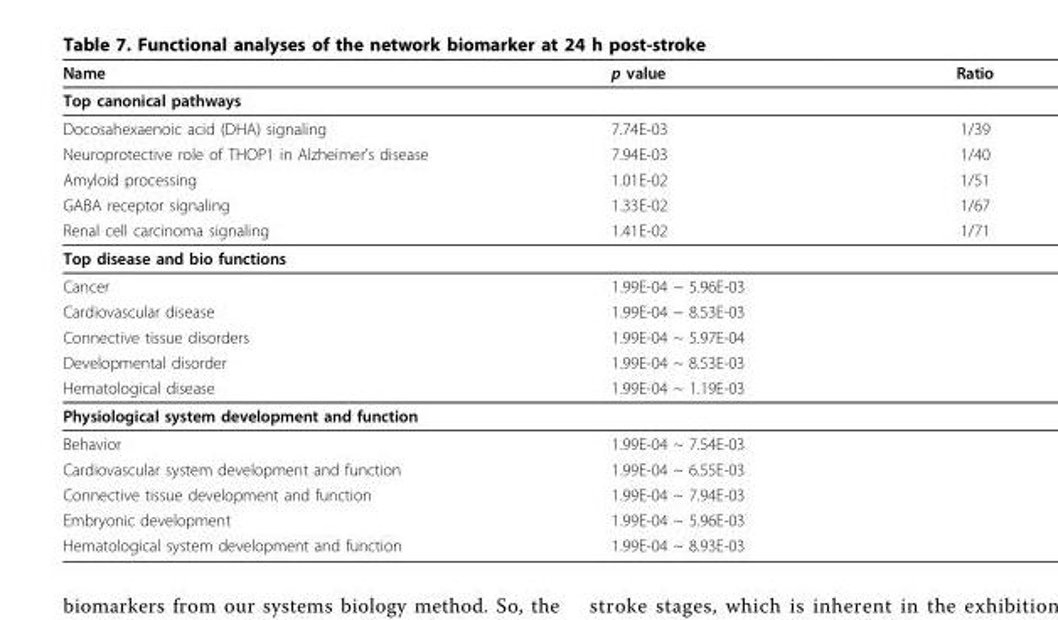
<table><thead><tr><td>Name</td><td>p value</td><td>Ratio</td></tr></thead><tbody><tr><td colspan="3">Top canonical pathways</td></tr><tr><td>Docosahexaenoic acid (DHA) signaling</td><td>7.74E-03</td><td>1/39</td></tr><tr><td>Neuroprotective role of THOP1 in Alzheimer’s disease</td><td>7.94E-03</td><td>1/40</td></tr><tr><td>Amyloid processing</td><td>1.01E-02</td><td>1/51</td></tr><tr><td>GABA receptor signaling</td><td>1.33E-02</td><td>1/67</td></tr><tr><td>Renal cell carcinoma signaling</td><td>1.41E-02</td><td>1/71</td></tr><tr><td colspan="3">Top disease and bio functions</td></tr><tr><td>Cancer</td><td colspan="2">1.99E-04 ~ 5.96E-03</td></tr><tr><td>Cardiovascular disease</td><td colspan="2">1.99E-04 ~ 8.53E-03</td></tr><tr><td>Connective tissue disorders</td><td colspan="2">1.99E-04 ~ 5.97E-04</td></tr><tr><td>Developmental disorder</td><td colspan="2">1.99E-04 ~ 8.53E-03</td></tr><tr><td>Hematological disease</td><td colspan="2">1.99E-04 ~ 1.19E-03</td></tr><tr><td colspan="3">Physiological system development and function</td></tr><tr><td>Behavior</td><td colspan="2">1.99E-04 ~ 7.54E-03</td></tr><tr><td>Cardiovascular system development and function</td><td colspan="2">1.99E-04 ~ 6.55E-03</td></tr><tr><td>Connective tissue development and function</td><td colspan="2">1.99E-04 ~ 7.94E-03</td></tr><tr><td>Embryonic development</td><td colspan="2">1.99E-04 ~ 5.96E-03</td></tr><tr><td>Hematological system development and function</td><td colspan="2">1.99E-04 ~ 8.93E-03</td></tr></tbody></table>